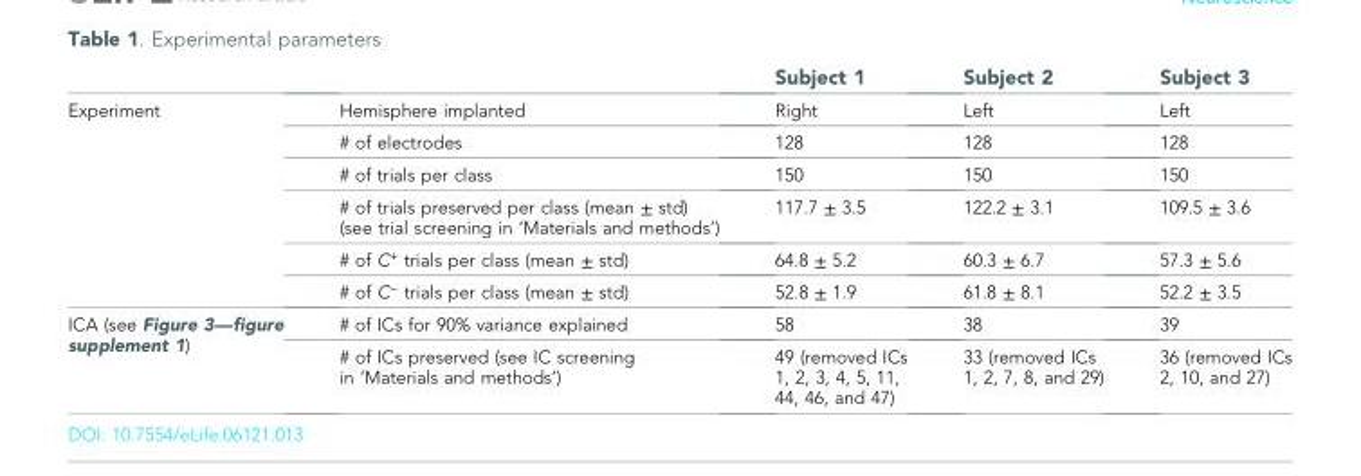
<table><thead><tr><td></td><td></td><td>Subject 1</td><td>Subject 2</td><td>Subject 3</td></tr></thead><tbody><tr><td rowspan="6">Experiment</td><td>Hemisphere implanted</td><td>Right</td><td>Left</td><td>Left</td></tr><tr><td># of electrodes</td><td>128</td><td>128</td><td>128</td></tr><tr><td># of trials per class</td><td>150</td><td>150</td><td>150</td></tr><tr><td># of trials preserved per class (mean ± std) (see trial screening in ‘Materials and methods’)</td><td>117.7 ± 3.5</td><td>122.2 ± 3.1</td><td>109.5 ± 3.6</td></tr><tr><td># of C<sup>+</sup> trials per class (mean ± std)</td><td>64.8 ± 5.2</td><td>60.3 ± 6.7</td><td>57.3 ± 5.6</td></tr><tr><td># of C<sup>−</sup> trials per class (mean ± std)</td><td>52.8 ± 1.9</td><td>61.8 ± 8.1</td><td>52.2 ± 3.5</td></tr><tr><td rowspan="2">ICA (see Figure 3—figure supplement 1)</td><td># of ICs for 90% variance explained</td><td>58</td><td>38</td><td>39</td></tr><tr><td># of ICs preserved (see IC screening in ‘Materials and methods’)</td><td>49 (removed ICs 1, 2, 3, 4, 5, 11, 44, 46, and 47)</td><td>33 (removed ICs 1, 2, 7, 8, and 29)</td><td>36 (removed ICs 2, 10, and 27)</td></tr></tbody></table>